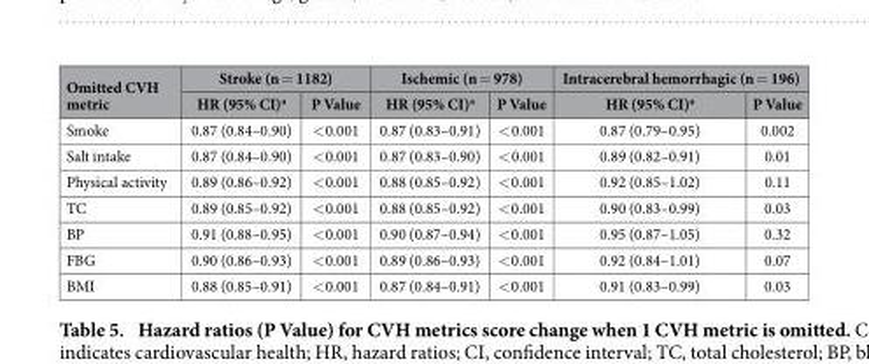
<table><thead><tr><td rowspan="2">Omitted CVH metric</td><td colspan="2">Stroke (n = 1182)</td><td colspan="2">Ischemic (n = 978)</td><td colspan="2">Intracerebral hemorrhagic (n = 196)</td></tr><tr><td>HR (95% CI)<sup>a</sup></td><td>P Value</td><td>HR (95% CI)<sup>a</sup></td><td>P Value</td><td>HR (95% CI)<sup>a</sup></td><td>P Value</td></tr></thead><tbody><tr><td>Smoke</td><td>0.87 (0.84–0.90)</td><td>&lt; 0.001</td><td>0.87 (0.83–0.91)</td><td>&lt; 0.001</td><td>0.87 (0.79–0.95)</td><td>0.002</td></tr><tr><td>Salt intake</td><td>0.87 (0.84–0.90)</td><td>&lt; 0.001</td><td>0.87 (0.83–0.90)</td><td>&lt; 0.001</td><td>0.89 (0.82–0.91)</td><td>0.01</td></tr><tr><td>Physical activity</td><td>0.89 (0.86–0.92)</td><td>&lt; 0.001</td><td>0.88 (0.85–0.92)</td><td>&lt; 0.001</td><td>0.92 (0.85–1.02)</td><td>0.11</td></tr><tr><td>TC</td><td>0.89 (0.85–0.92)</td><td>&lt; 0.001</td><td>0.88 (0.85–0.92)</td><td>&lt; 0.001</td><td>0.90 (0.83–0.99)</td><td>0.03</td></tr><tr><td>BP</td><td>0.91 (0.88–0.95)</td><td>&lt; 0.001</td><td>0.90 (0.87–0.94)</td><td>&lt; 0.001</td><td>0.95 (0.87–1.05)</td><td>0.32</td></tr><tr><td>FBG</td><td>0.90 (0.86–0.93)</td><td>&lt; 0.001</td><td>0.89 (0.86–0.93)</td><td>&lt; 0.001</td><td>0.92 (0.84–1.01)</td><td>0.07</td></tr><tr><td>BMI</td><td>0.88 (0.85–0.91)</td><td>&lt; 0.001</td><td>0.87 (0.84–0.91)</td><td>&lt; 0.001</td><td>0.91 (0.83–0.99)</td><td>0.03</td></tr></tbody></table>